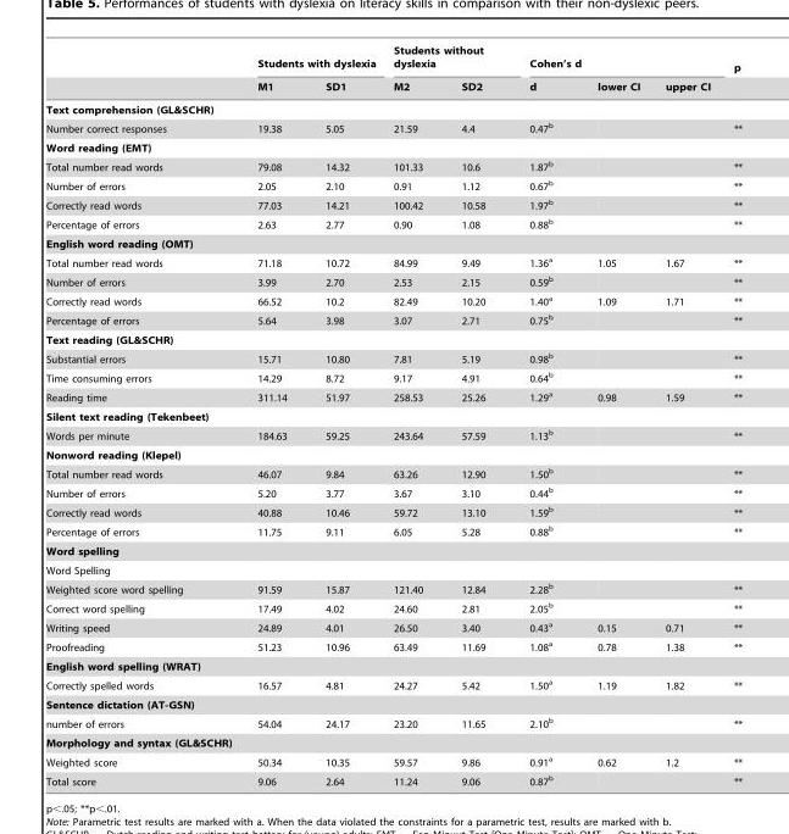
<table><thead><tr><td rowspan="2"></td><td colspan="2">Students with dyslexia</td><td colspan="2">Students without dyslexia</td><td colspan="3">Cohen’s d</td><td rowspan="2">p</td></tr><tr><td>M1</td><td>SD1</td><td>M2</td><td>SD2</td><td>d</td><td>lower CI</td><td>upper CI</td></tr></thead><tbody><tr><td colspan="9">Text comprehension (GL&amp;SCHR)</td></tr><tr><td>Number correct responses</td><td>19.38</td><td>5.05</td><td>21.59</td><td>4.4</td><td>0.47<sup>b</sup></td><td></td><td></td><td>**</td></tr><tr><td colspan="9">Word reading (EMT)</td></tr><tr><td>Total number read words</td><td>79.08</td><td>14.32</td><td>101.33</td><td>10.6</td><td>1.87<sup>b</sup></td><td></td><td></td><td>**</td></tr><tr><td>Number of errors</td><td>2.05</td><td>2.10</td><td>0.91</td><td>1.12</td><td>0.67<sup>b</sup></td><td></td><td></td><td>**</td></tr><tr><td>Correctly read words</td><td>77.03</td><td>14.21</td><td>100.42</td><td>10.58</td><td>1.97<sup>b</sup></td><td></td><td></td><td>**</td></tr><tr><td>Percentage of errors</td><td>2.63</td><td>2.77</td><td>0.90</td><td>1.08</td><td>0.88<sup>b</sup></td><td></td><td></td><td>**</td></tr><tr><td colspan="9">English word reading (OMT)</td></tr><tr><td>Total number read words</td><td>71.18</td><td>10.72</td><td>84.99</td><td>9.49</td><td>1.36<sup>a</sup></td><td>1.05</td><td>1.67</td><td>**</td></tr><tr><td>Number of errors</td><td>3.99</td><td>2.70</td><td>2.53</td><td>2.15</td><td>0.59<sup>b</sup></td><td></td><td></td><td>**</td></tr><tr><td>Correctly read words</td><td>66.52</td><td>10.2</td><td>82.49</td><td>10.20</td><td>1.40<sup>a</sup></td><td>1.09</td><td>1.71</td><td>**</td></tr><tr><td>Percentage of errors</td><td>5.64</td><td>3.98</td><td>3.07</td><td>2.71</td><td>0.75<sup>b</sup></td><td></td><td></td><td>**</td></tr><tr><td colspan="9">Text reading (GL&amp;SCHR)</td></tr><tr><td>Substantial errors</td><td>15.71</td><td>10.80</td><td>7.81</td><td>5.19</td><td>0.98<sup>b</sup></td><td></td><td></td><td>**</td></tr><tr><td>Time consuming errors</td><td>14.29</td><td>8.72</td><td>9.17</td><td>4.91</td><td>0.64<sup>b</sup></td><td></td><td></td><td>**</td></tr><tr><td>Reading time</td><td>311.14</td><td>51.97</td><td>258.53</td><td>25.26</td><td>1.29<sup>a</sup></td><td>0.98</td><td>1.59</td><td>**</td></tr><tr><td colspan="9">Silent text reading (Tekenbeet)</td></tr><tr><td>Words per minute</td><td>184.63</td><td>59.25</td><td>243.64</td><td>57.59</td><td>1.13<sup>b</sup></td><td></td><td></td><td>**</td></tr><tr><td colspan="9">Nonword reading (Klepel)</td></tr><tr><td>Total number read words</td><td>46.07</td><td>9.84</td><td>63.26</td><td>12.90</td><td>1.50<sup>b</sup></td><td></td><td></td><td>**</td></tr><tr><td>Number of errors</td><td>5.20</td><td>3.77</td><td>3.67</td><td>3.10</td><td>0.44<sup>b</sup></td><td></td><td></td><td>**</td></tr><tr><td>Correctly read words</td><td>40.88</td><td>10.46</td><td>59.72</td><td>13.10</td><td>1.59<sup>b</sup></td><td></td><td></td><td>**</td></tr><tr><td>Percentage of errors</td><td>11.75</td><td>9.11</td><td>6.05</td><td>5.28</td><td>0.88<sup>b</sup></td><td></td><td></td><td>**</td></tr><tr><td colspan="9">Word spelling</td></tr><tr><td colspan="9">Word Spelling</td></tr><tr><td>Weighted score word spelling</td><td>91.59</td><td>15.87</td><td>121.40</td><td>12.84</td><td>2.28<sup>b</sup></td><td></td><td></td><td>**</td></tr><tr><td>Correct word spelling</td><td>17.49</td><td>4.02</td><td>24.60</td><td>2.81</td><td>2.05<sup>b</sup></td><td></td><td></td><td>**</td></tr><tr><td>Writing speed</td><td>24.89</td><td>4.01</td><td>26.50</td><td>3.40</td><td>0.43<sup>a</sup></td><td>0.15</td><td>0.71</td><td>**</td></tr><tr><td>Proofreading</td><td>51.23</td><td>10.96</td><td>63.49</td><td>11.69</td><td>1.08<sup>a</sup></td><td>0.78</td><td>1.38</td><td>**</td></tr><tr><td colspan="9">English word spelling (WRAT)</td></tr><tr><td>Correctly spelled words</td><td>16.57</td><td>4.81</td><td>24.27</td><td>5.42</td><td>1.50<sup>a</sup></td><td>1.19</td><td>1.82</td><td>**</td></tr><tr><td colspan="9">Sentence dictation (AT-GSN)</td></tr><tr><td>number of errors</td><td>54.04</td><td>24.17</td><td>23.20</td><td>11.65</td><td>2.10<sup>b</sup></td><td></td><td></td><td>**</td></tr><tr><td colspan="9">Morphology and syntax (GL&amp;SCHR)</td></tr><tr><td>Weighted score</td><td>50.34</td><td>10.35</td><td>59.57</td><td>9.86</td><td>0.91<sup>a</sup></td><td>0.62</td><td>1.2</td><td>**</td></tr><tr><td>Total score</td><td>9.06</td><td>2.64</td><td>11.24</td><td>9.06</td><td>0.87<sup>b</sup></td><td></td><td></td><td>**</td></tr></tbody></table>